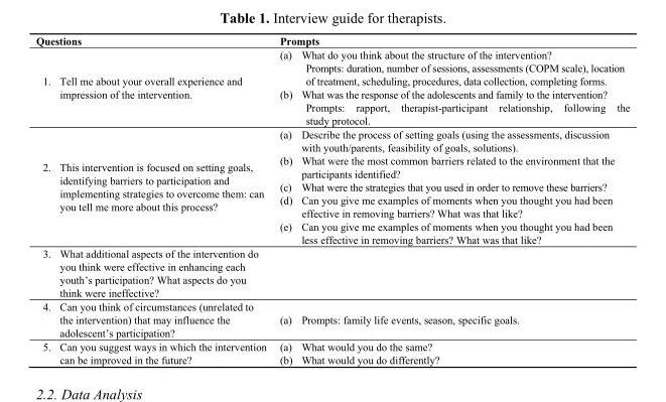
<table><thead><tr><td>Questions</td><td>Prompts</td></tr></thead><tbody><tr><td>1. Tell me about your overall experience and impression of the intervention.</td><td>(a) What do you think about the structure of the intervention? Prompts: duration, number of sessions, assessments (COPM scale), location of treatment, scheduling, procedures, data collection, completing forms. (b) What was the response of the adolescents and family to the intervention? Prompts: rapport, therapist-participant relationship, following the study protocol.</td></tr><tr><td>2. This intervention is focused on setting goals, identifying barriers to participation and implementing strategies to overcome them: can you tell me more about this process?</td><td>(a) Describe the process of setting goals (using the assessments, discussion with youth/parents, feasibility of goals, solutions). (b) What were the most common barriers related to the environment that the participants identified? (c) What were the strategies that you used in order to remove these barriers? (d) Can you give me examples of moments when you thought you had been effective in removing barriers? What was that like? (e) Can you give me examples of moments when you thought you had been less effective in removing barriers? What was that like?</td></tr><tr><td colspan="2">3. What additional aspects of the intervention do you think were effective in enhancing each youth’s participation? What aspects do you think were ineffective?</td></tr><tr><td>4. Can you think of circumstances (unrelated to the intervention) that may influence the adolescent’s participation?</td><td>(a) Prompts: family life events, season, specific goals.</td></tr><tr><td>5. Can you suggest ways in which the intervention can be improved in the future?</td><td>(a) What would you do the same? (b) What would you do differently?</td></tr></tbody></table>